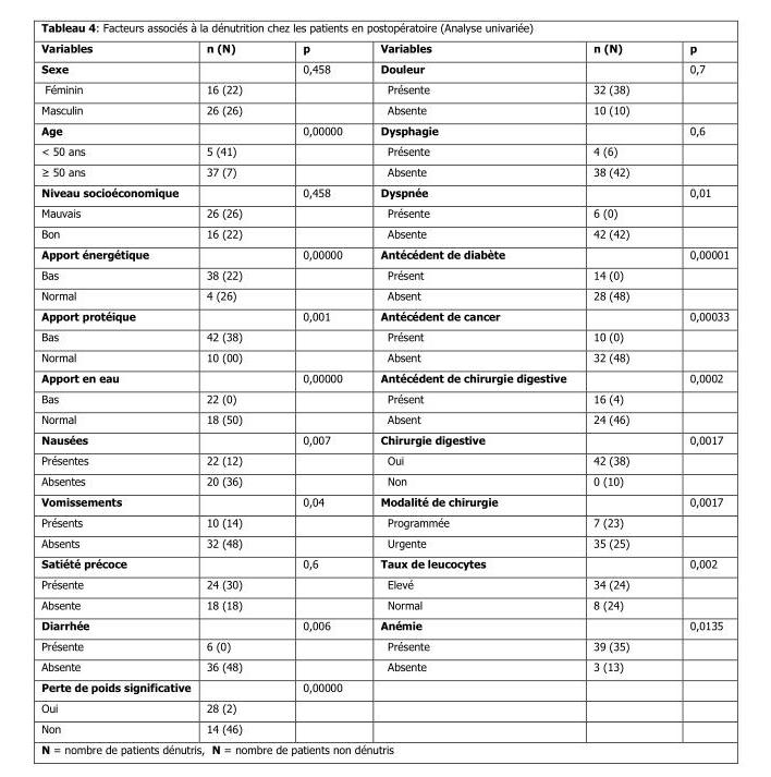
<table><thead><tr><td>Variables</td><td>n (N)</td><td>p</td><td>Variables</td><td>n (N)</td><td>p</td></tr></thead><tbody><tr><td>Sexe</td><td></td><td>0,458</td><td>Douleur</td><td></td><td>0,7</td></tr><tr><td>Féminin</td><td>16 (22)</td><td></td><td>Présente</td><td>32 (38)</td><td></td></tr><tr><td>Masculin</td><td>26 (26)</td><td></td><td>Absente</td><td>10 (10)</td><td></td></tr><tr><td>Age</td><td></td><td>0,00000</td><td>Dysphagie</td><td></td><td>0,6</td></tr><tr><td>&lt; 50 ans</td><td>5 (41)</td><td></td><td>Présente</td><td>4 (6)</td><td></td></tr><tr><td>≥ 50 ans</td><td>37 (7)</td><td></td><td>Absente</td><td>38 (42)</td><td></td></tr><tr><td>Niveau socioéconomique</td><td></td><td>0,458</td><td>Dyspnée</td><td></td><td>0,01</td></tr><tr><td>Mauvais</td><td>26 (26)</td><td></td><td>Présente</td><td>6 (0)</td><td></td></tr><tr><td>Bon</td><td>16 (22)</td><td></td><td>Absente</td><td>42 (42)</td><td></td></tr><tr><td>Apport énergétique</td><td></td><td>0,00000</td><td>Antécédent de diabète</td><td></td><td>0,00001</td></tr><tr><td>Bas</td><td>38 (22)</td><td></td><td>Présent</td><td>14 (0)</td><td></td></tr><tr><td>Normal</td><td>4 (26)</td><td></td><td>Absent</td><td>28 (48)</td><td></td></tr><tr><td>Apport protéique</td><td></td><td>0,001</td><td>Antécédent de cancer</td><td></td><td>0,00033</td></tr><tr><td>Bas</td><td>42 (38)</td><td></td><td>Présent</td><td>10 (0)</td><td></td></tr><tr><td>Normal</td><td>10 (00)</td><td></td><td>Absent</td><td>32 (48)</td><td></td></tr><tr><td>Apport en eau</td><td></td><td>0,00000</td><td>Antécédent de chirurgie digestive</td><td></td><td>0,0002</td></tr><tr><td>Bas</td><td>22 (0)</td><td></td><td>Présent</td><td>16 (4)</td><td></td></tr><tr><td>Normal</td><td>18 (50)</td><td></td><td>Absent</td><td>24 (46)</td><td></td></tr><tr><td>Nausées</td><td></td><td>0,007</td><td>Chirurgie digestive</td><td></td><td>0,0017</td></tr><tr><td>Présentes</td><td>22 (12)</td><td></td><td>Oui</td><td>42 (38)</td><td></td></tr><tr><td>Absentes</td><td>20 (36)</td><td></td><td>Non</td><td>0 (10)</td><td></td></tr><tr><td>Vomissements</td><td></td><td>0,04</td><td>Modalité de chirurgie</td><td></td><td>0,0017</td></tr><tr><td>Présents</td><td>10 (14)</td><td></td><td>Programmée</td><td>7 (23)</td><td></td></tr><tr><td>Absents</td><td>32 (48)</td><td></td><td>Urgente</td><td>35 (25)</td><td></td></tr><tr><td>Satiété précoce</td><td></td><td>0,6</td><td>Taux de leucocytes</td><td></td><td>0,002</td></tr><tr><td>Présente</td><td>24 (30)</td><td></td><td>Elevé</td><td>34 (24)</td><td></td></tr><tr><td>Absente</td><td>18 (18)</td><td></td><td>Normal</td><td>8 (24)</td><td></td></tr><tr><td>Diarrhée</td><td></td><td>0,006</td><td>Anémie</td><td></td><td>0,0135</td></tr><tr><td>Présente</td><td>6 (0)</td><td></td><td>Présente</td><td>39 (35)</td><td></td></tr><tr><td>Absente</td><td>36 (48)</td><td></td><td>Absente</td><td>3 (13)</td><td></td></tr><tr><td>Perte de poids significative</td><td></td><td>0,00000</td><td></td><td></td><td></td></tr><tr><td>Oui</td><td>28 (2)</td><td></td><td></td><td></td><td></td></tr><tr><td>Non</td><td>14 (46)</td><td></td><td></td><td></td><td></td></tr></tbody></table>